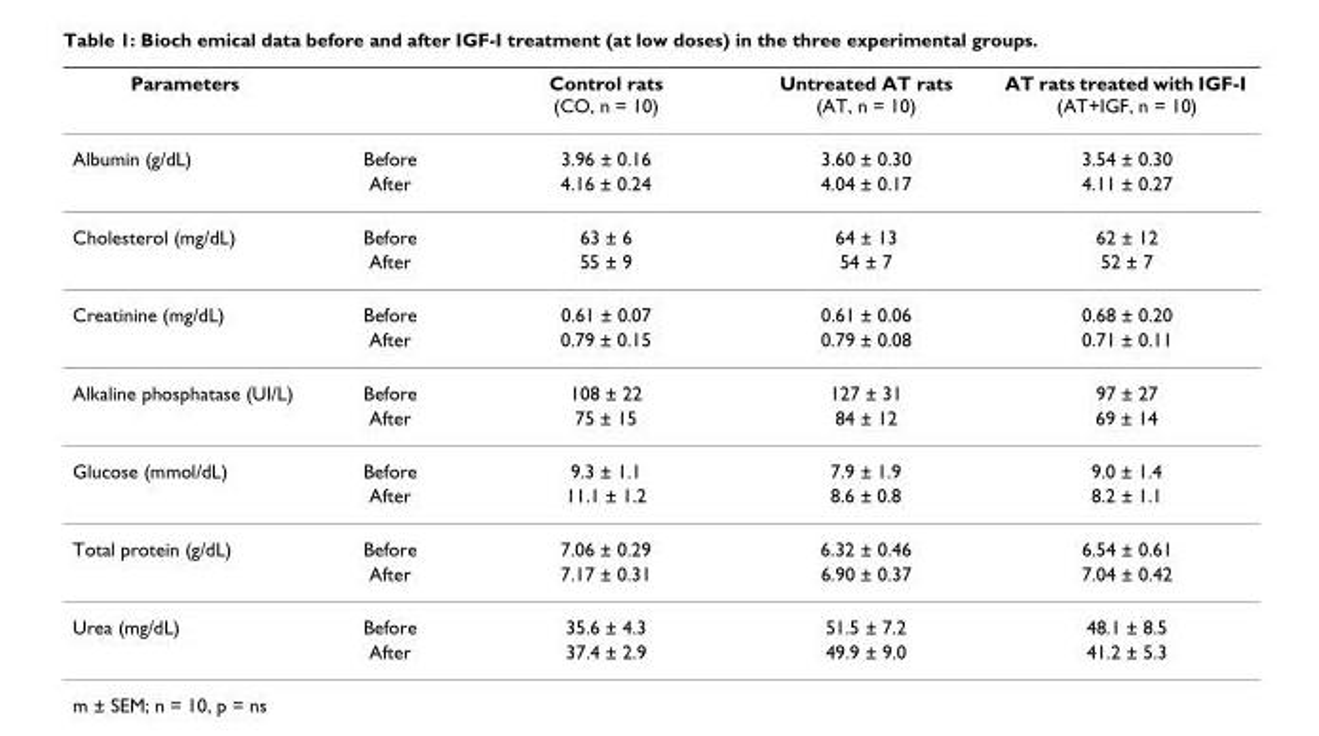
<table><thead><tr><td>Parameters</td><td></td><td>Control rats (CO, n = 10)</td><td>Untreated AT rats (AT, n = 10)</td><td>AT rats treated with IGF-I (AT+IGF, n = 10)</td></tr></thead><tbody><tr><td rowspan="2">Albumin (g/dL)</td><td>Before</td><td>3.96 ± 0.16</td><td>3.60 ± 0.30</td><td>3.54 ± 0.30</td></tr><tr><td>After</td><td>4.16 ± 0.24</td><td>4.04 ± 0.17</td><td>4.11 ± 0.27</td></tr><tr><td rowspan="2">Cholesterol (mg/dL)</td><td>Before</td><td>63 ± 6</td><td>64 ± 13</td><td>62 ± 12</td></tr><tr><td>After</td><td>55 ± 9</td><td>54 ± 7</td><td>52 ± 7</td></tr><tr><td rowspan="2">Creatinine (mg/dL)</td><td>Before</td><td>0.61 ± 0.07</td><td>0.61 ± 0.06</td><td>0.68 ± 0.20</td></tr><tr><td>After</td><td>0.79 ± 0.15</td><td>0.79 ± 0.08</td><td>0.71 ± 0.11</td></tr><tr><td rowspan="2">Alkaline phosphatase (UI/L)</td><td>Before</td><td>108 ± 22</td><td>127 ± 31</td><td>97 ± 27</td></tr><tr><td>After</td><td>75 ± 15</td><td>84 ± 12</td><td>69 ± 14</td></tr><tr><td rowspan="2">Glucose (mmol/dL)</td><td>Before</td><td>9.3 ± 1.1</td><td>7.9 ± 1.9</td><td>9.0 ± 1.4</td></tr><tr><td>After</td><td>11.1 ± 1.2</td><td>8.6 ± 0.8</td><td>8.2 ± 1.1</td></tr><tr><td rowspan="2">Total protein (g/dL)</td><td>Before</td><td>7.06 ± 0.29</td><td>6.32 ± 0.46</td><td>6.54 ± 0.61</td></tr><tr><td>After</td><td>7.17 ± 0.31</td><td>6.90 ± 0.37</td><td>7.04 ± 0.42</td></tr><tr><td rowspan="2">Urea (mg/dL)</td><td>Before</td><td>35.6 ± 4.3</td><td>51.5 ± 7.2</td><td>48.1 ± 8.5</td></tr><tr><td>After</td><td>37.4 ± 2.9</td><td>49.9 ± 9.0</td><td>41.2 ± 5.3</td></tr></tbody></table>